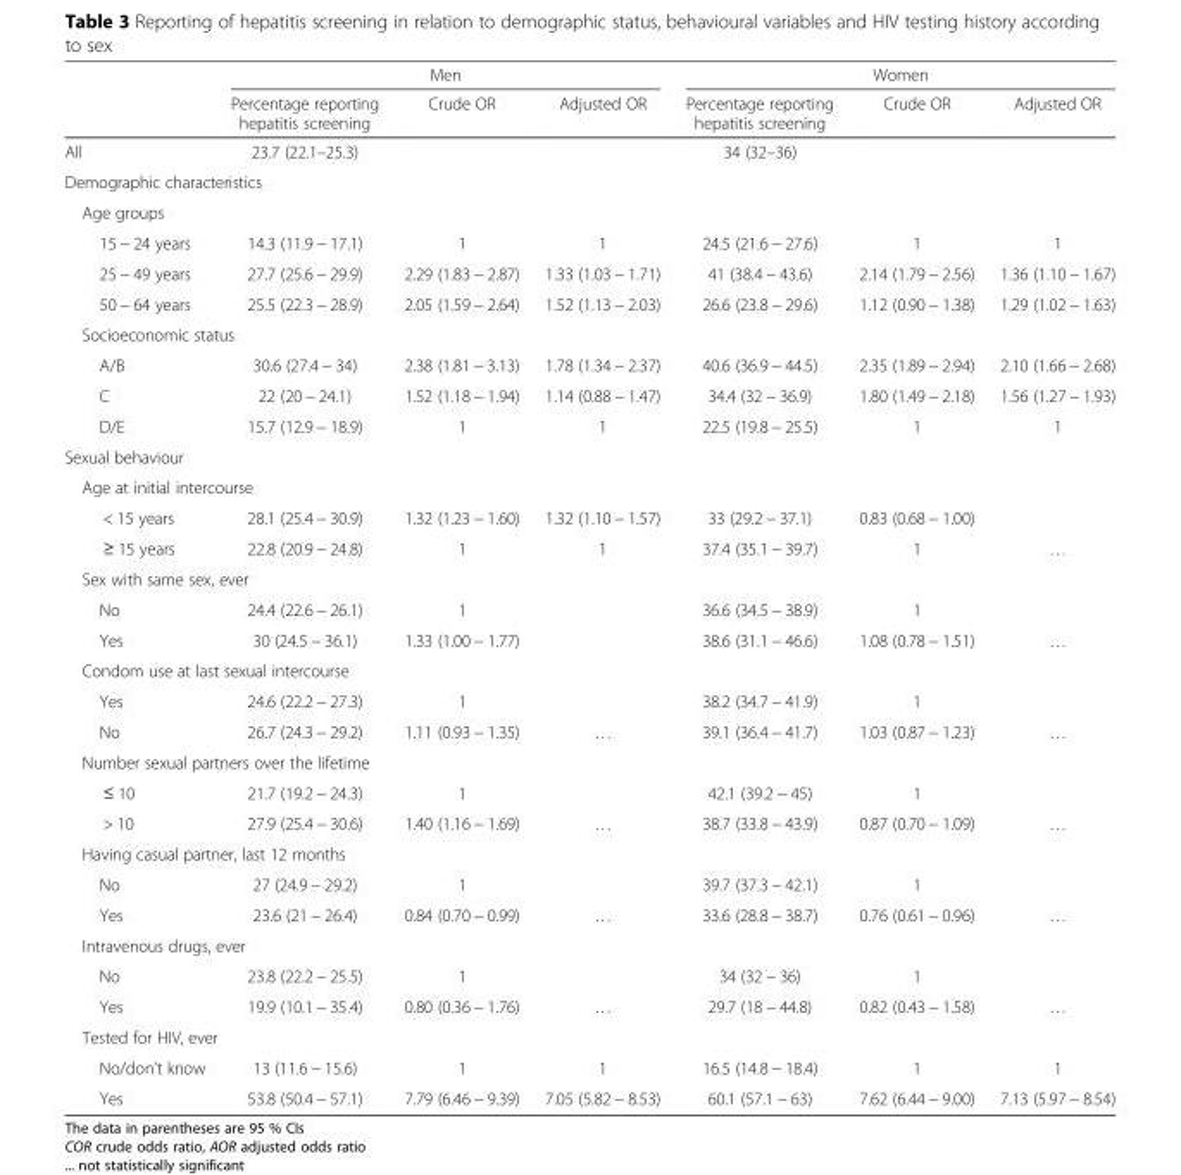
<table><thead><tr><td rowspan="2"></td><td colspan="3">Men</td><td colspan="3">Women</td></tr><tr><td>Percentage reporting hepatitis screening</td><td>Crude OR</td><td>Adjusted OR</td><td>Percentage reporting hepatitis screening</td><td>Crude OR</td><td>Adjusted OR</td></tr></thead><tbody><tr><td>All</td><td>23.7 (22.1–25.3)</td><td></td><td></td><td>34 (32–36)</td><td></td><td></td></tr><tr><td colspan="7">Demographic characteristics</td></tr><tr><td colspan="7">Age groups</td></tr><tr><td>15 − 24 years</td><td>14.3 (11.9 − 17.1)</td><td>1</td><td>1</td><td>24.5 (21.6 − 27.6)</td><td>1</td><td>1</td></tr><tr><td>25 − 49 years</td><td>27.7 (25.6 − 29.9)</td><td>2.29 (1.83 − 2.87)</td><td>1.33 (1.03 − 1.71)</td><td>41 (38.4 − 43.6)</td><td>2.14 (1.79 − 2.56)</td><td>1.36 (1.10 − 1.67)</td></tr><tr><td>50 − 64 years</td><td>25.5 (22.3 − 28.9)</td><td>2.05 (1.59 − 2.64)</td><td>1.52 (1.13 − 2.03)</td><td>26.6 (23.8 − 29.6)</td><td>1.12 (0.90 − 1.38)</td><td>1.29 (1.02 − 1.63)</td></tr><tr><td colspan="7">Socioeconomic status</td></tr><tr><td>A/B</td><td>30.6 (27.4 − 34)</td><td>2.38 (1.81 − 3.13)</td><td>1.78 (1.34 − 2.37)</td><td>40.6 (36.9 − 44.5)</td><td>2.35 (1.89 − 2.94)</td><td>2.10 (1.66 − 2.68)</td></tr><tr><td>C</td><td>22 (20 − 24.1)</td><td>1.52 (1.18 − 1.94)</td><td>1.14 (0.88 − 1.47)</td><td>34.4 (32 − 36.9)</td><td>1.80 (1.49 − 2.18)</td><td>1.56 (1.27 − 1.93)</td></tr><tr><td>D/E</td><td>15.7 (12.9 − 18.9)</td><td>1</td><td>1</td><td>22.5 (19.8 − 25.5)</td><td>1</td><td>1</td></tr><tr><td colspan="7">Sexual behaviour</td></tr><tr><td colspan="7">Age at initial intercourse</td></tr><tr><td>&lt; 15 years</td><td>28.1 (25.4 − 30.9)</td><td>1.32 (1.23 − 1.60)</td><td>1.32 (1.10 − 1.57)</td><td>33 (29.2 − 37.1)</td><td>0.83 (0.68 − 1.00)</td><td></td></tr><tr><td>≥ 15 years</td><td>22.8 (20.9 − 24.8)</td><td>1</td><td>1</td><td>37.4 (35.1 − 39.7)</td><td>1</td><td>…</td></tr><tr><td colspan="7">Sex with same sex, ever</td></tr><tr><td>No</td><td>24.4 (22.6 − 26.1)</td><td>1</td><td></td><td>36.6 (34.5 − 38.9)</td><td>1</td><td></td></tr><tr><td>Yes</td><td>30 (24.5 − 36.1)</td><td>1.33 (1.00 − 1.77)</td><td></td><td>38.6 (31.1 − 46.6)</td><td>1.08 (0.78 − 1.51)</td><td>…</td></tr><tr><td colspan="7">Condom use at last sexual intercourse</td></tr><tr><td>Yes</td><td>24.6 (22.2 − 27.3)</td><td>1</td><td></td><td>38.2 (34.7 − 41.9)</td><td>1</td><td></td></tr><tr><td>No</td><td>26.7 (24.3 − 29.2)</td><td>1.11 (0.93 − 1.35)</td><td>…</td><td>39.1 (36.4 − 41.7)</td><td>1.03 (0.87 − 1.23)</td><td>…</td></tr><tr><td colspan="7">Number sexual partners over the lifetime</td></tr><tr><td>≤ 10</td><td>21.7 (19.2 − 24.3)</td><td>1</td><td></td><td>42.1 (39.2 − 45)</td><td>1</td><td></td></tr><tr><td>&gt; 10</td><td>27.9 (25.4 − 30.6)</td><td>1.40 (1.16 − 1.69)</td><td>…</td><td>38.7 (33.8 − 43.9)</td><td>0.87 (0.70 − 1.09)</td><td>…</td></tr><tr><td colspan="7">Having casual partner, last 12 months</td></tr><tr><td>No</td><td>27 (24.9 − 29.2)</td><td>1</td><td></td><td>39.7 (37.3 − 42.1)</td><td>1</td><td></td></tr><tr><td>Yes</td><td>23.6 (21 − 26.4)</td><td>0.84 (0.70 − 0.99)</td><td>…</td><td>33.6 (28.8 − 38.7)</td><td>0.76 (0.61 − 0.96)</td><td>…</td></tr><tr><td colspan="7">Intravenous drugs, ever</td></tr><tr><td>No</td><td>23.8 (22.2 − 25.5)</td><td>1</td><td></td><td>34 (32 − 36)</td><td>1</td><td></td></tr><tr><td>Yes</td><td>19.9 (10.1 − 35.4)</td><td>0.80 (0.36 − 1.76)</td><td>…</td><td>29.7 (18 − 44.8)</td><td>0.82 (0.43 − 1.58)</td><td>…</td></tr><tr><td colspan="7">Tested for HIV, ever</td></tr><tr><td>No/don’t know</td><td>13 (11.6 − 15.6)</td><td>1</td><td>1</td><td>16.5 (14.8 − 18.4)</td><td>1</td><td>1</td></tr><tr><td>Yes</td><td>53.8 (50.4 − 57.1)</td><td>7.79 (6.46 − 9.39)</td><td>7.05 (5.82 − 8.53)</td><td>60.1 (57.1 − 63)</td><td>7.62 (6.44 − 9.00)</td><td>7.13 (5.97 − 8.54)</td></tr></tbody></table>